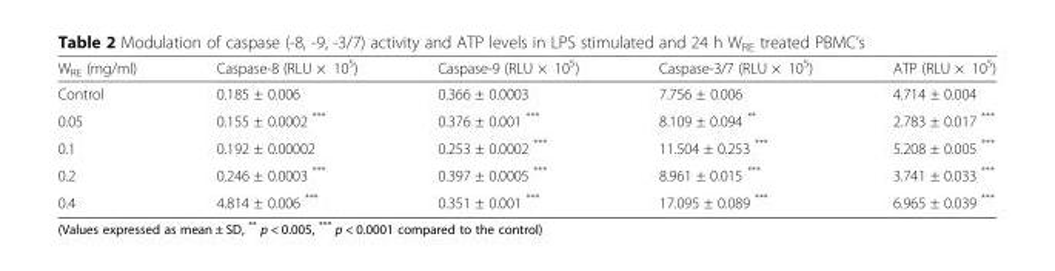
<table><thead><tr><td>W<sub>RE</sub> (mg/ml)</td><td>Caspase-8 (RLU × 10<sup>5</sup>)</td><td>Caspase-9 (RLU × 10<sup>5</sup>)</td><td>Caspase-3/7 (RLU × 10<sup>5</sup>)</td><td>ATP (RLU × 10<sup>5</sup>)</td></tr></thead><tbody><tr><td>Control</td><td>0.185 ± 0.006</td><td>0.366 ± 0.0003</td><td>7.756 ± 0.006</td><td>4.714 ± 0.004</td></tr><tr><td>0.05</td><td>0.155 ± 0.0002 ***</td><td>0.376 ± 0.001 ***</td><td>8.109 ± 0.094 **</td><td>2.783 ± 0.017 ***</td></tr><tr><td>0.1</td><td>0.192 ± 0.00002</td><td>0.253 ± 0.0002 ***</td><td>11.504 ± 0.253 ***</td><td>5.208 ± 0.005 ***</td></tr><tr><td>0.2</td><td>0.246 ± 0.0003 ***</td><td>0.397 ± 0.0005 ***</td><td>8.961 ± 0.015 ***</td><td>3.741 ± 0.033 ***</td></tr><tr><td>0.4</td><td>4.814 ± 0.006 ***</td><td>0.351 ± 0.001 ***</td><td>17.095 ± 0.089 ***</td><td>6.965 ± 0.039 ***</td></tr></tbody></table>